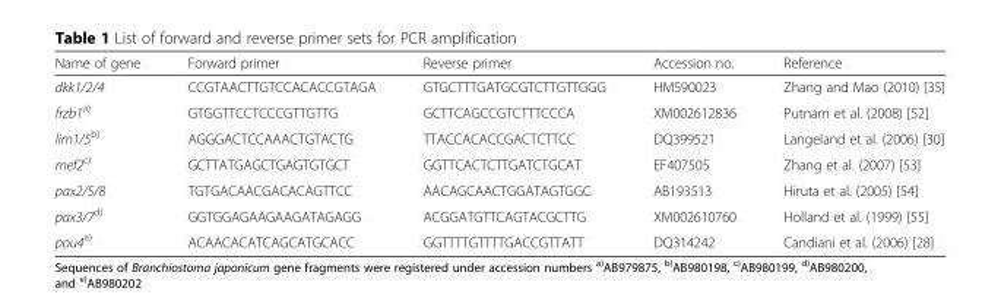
<table><thead><tr><td>Name of gene</td><td>Forward primer</td><td>Reverse primer</td><td>Accession no.</td><td>Reference</td></tr></thead><tbody><tr><td>dkk1/2/4</td><td>CCGTAACTTGTCCACACCGTAGA</td><td>GTGCTTTGATGCGTCTTGTTGGG</td><td>HM590023</td><td>Zhang and Mao (2010) [35]</td></tr><tr><td>frzb1<sup>a)</sup></td><td>GTGGTTCCTCCCGTTGTTG</td><td>GCTTCAGCCGTCTTTCCCA</td><td>XM002612836</td><td>Putnam et al. (2008) [52]</td></tr><tr><td>lim1/5<sup>b)</sup></td><td>AGGGACTCCAAACTGTACTG</td><td>TTACCACACCGACTCTTCC</td><td>DQ399521</td><td>Langeland et al. (2006) [30]</td></tr><tr><td>mef2<sup>c)</sup></td><td>GCTTATGAGCTGAGTGTGCT</td><td>GGTTCACTCTTGATCTGCAT</td><td>EF407505</td><td>Zhang et al. (2007) [53]</td></tr><tr><td>pax2/5/8</td><td>TGTGACAACGACACAGTTCC</td><td>AACAGCAACTGGATAGTGGC</td><td>AB193513</td><td>Hiruta et al. (2005) [54]</td></tr><tr><td>pax3/7<sup>d)</sup></td><td>GGTGGAGAAGAAGATAGAGG</td><td>ACGGATGTTCAGTACGCTTG</td><td>XM002610760</td><td>Holland et al. (1999) [55]</td></tr><tr><td>pou4<sup>e)</sup></td><td>ACAACACATCAGCATGCACC</td><td>GGTTTTGTTTTGACCGTTATT</td><td>DQ314242</td><td>Candiani et al. (2006) [28]</td></tr></tbody></table>